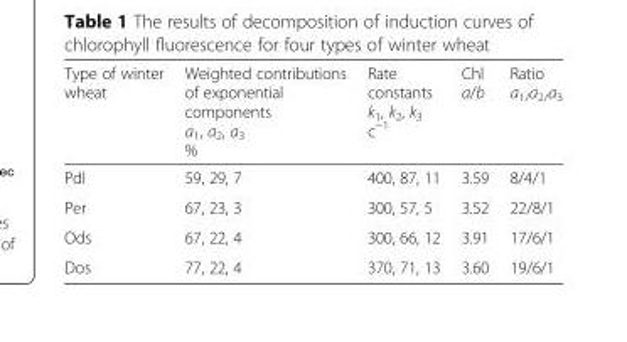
<table><thead><tr><td>Type of winter wheat</td><td>Weighted contributions of exponential components a<sub>1</sub>, a<sub>2</sub>, a<sub>3</sub> %</td><td>Rate constants k<sub>1</sub>, k<sub>2</sub>, k<sub>3</sub> c<sup>−1</sup></td><td>Chl a/b</td><td>Ratio a<sub>1/</sub>a<sub>2/</sub>a<sub>3</sub></td></tr></thead><tbody><tr><td>Pdl</td><td>59, 29, 7</td><td>400, 87, 11</td><td>3.59</td><td>8/4/1</td></tr><tr><td>Per</td><td>67, 23, 3</td><td>300, 57, 5</td><td>3.52</td><td>22/8/1</td></tr><tr><td>Ods</td><td>67, 22, 4</td><td>300, 66, 12</td><td>3.91</td><td>17/6/1</td></tr><tr><td>Dos</td><td>77, 22, 4</td><td>370, 71, 13</td><td>3.60</td><td>19/6/1</td></tr></tbody></table>